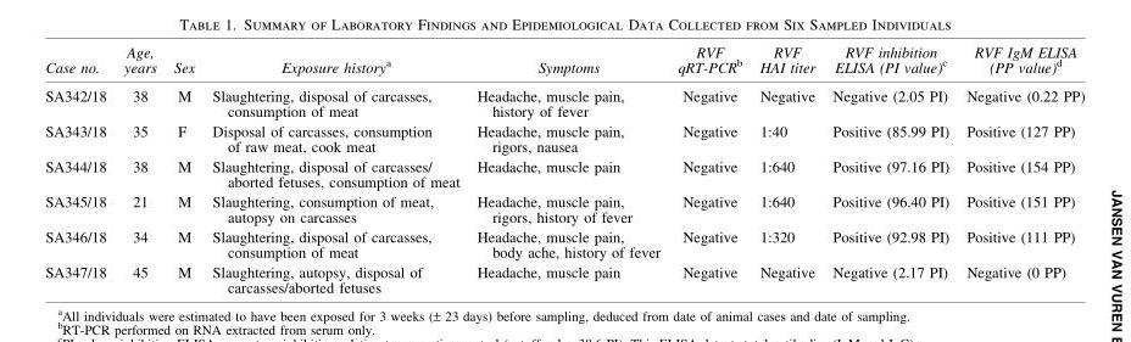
<table><thead><tr><td>Case no.</td><td>Age, years</td><td>Sex</td><td>Exposure history<sup>a</sup></td><td>Symptoms</td><td>RVF qRT-PCR<sup>b</sup></td><td>RVF HAI titer</td><td>RVF inhibition ELISA (PI value)<sup>c</sup></td><td>RVF IgM ELISA (PP value)<sup>d</sup></td></tr></thead><tbody><tr><td>SA342/18</td><td>38</td><td>M</td><td>Slaughtering, disposal of carcasses, consumption of meat</td><td>Headache, muscle pain, history of fever</td><td>Negative</td><td>Negative</td><td>Negative (2.05 PI)</td><td>Negative (0.22 PP)</td></tr><tr><td>SA343/18</td><td>35</td><td>F</td><td>Disposal of carcasses, consumption of raw meat, cook meat</td><td>Headache, muscle pain, rigors, nausea</td><td>Negative</td><td>1:40</td><td>Positive (85.99 PI)</td><td>Positive (127 PP)</td></tr><tr><td>SA344/18</td><td>38</td><td>M</td><td>Slaughtering, disposal of carcasses/ aborted fetuses, consumption of meat</td><td>Headache, muscle pain</td><td>Negative</td><td>1:640</td><td>Positive (97.16 PI)</td><td>Positive (154 PP)</td></tr><tr><td>SA345/18</td><td>21</td><td>M</td><td>Slaughtering, consumption of meat, autopsy on carcasses</td><td>Headache, muscle pain, rigors, history of fever</td><td>Negative</td><td>1:640</td><td>Positive (96.40 PI)</td><td>Positive (151 PP)</td></tr><tr><td>SA346/18</td><td>34</td><td>M</td><td>Slaughtering, disposal of carcasses, consumption of meat</td><td>Headache, muscle pain, body ache, history of fever</td><td>Negative</td><td>1:320</td><td>Positive (92.98 PI)</td><td>Positive (111 PP)</td></tr><tr><td>SA347/18</td><td>45</td><td>M</td><td>Slaughtering, autopsy, disposal of carcasses/aborted fetuses</td><td>Headache, muscle pain</td><td>Negative</td><td>Negative</td><td>Negative (2.17 PI)</td><td>Negative (0 PP)</td></tr></tbody></table>